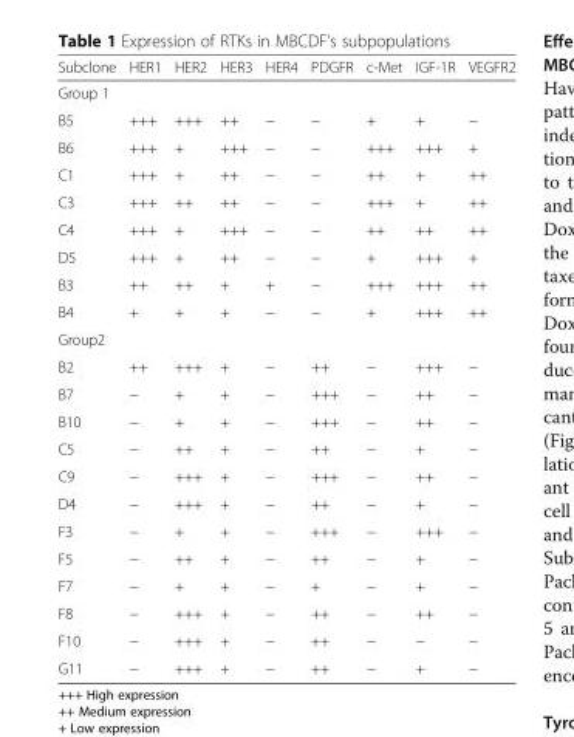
<table><thead><tr><td>Subclone</td><td>HER1</td><td>HER2</td><td>HER3</td><td>HER4</td><td>PDGFR</td><td>c-Met</td><td>IGF-1R</td><td>VEGFR2</td></tr></thead><tbody><tr><td colspan="9">Group 1</td></tr><tr><td>B5</td><td>+++</td><td>+++</td><td>++</td><td>−</td><td>−</td><td>+</td><td>+</td><td>−</td></tr><tr><td>B6</td><td>+++</td><td>+</td><td>+++</td><td>−</td><td>−</td><td>+++</td><td>+++</td><td>+</td></tr><tr><td>C1</td><td>+++</td><td>+</td><td>++</td><td>−</td><td>−</td><td>++</td><td>+</td><td>++</td></tr><tr><td>C3</td><td>+++</td><td>++</td><td>++</td><td>−</td><td>−</td><td>+++</td><td>+</td><td>++</td></tr><tr><td>C4</td><td>+++</td><td>+</td><td>+++</td><td>−</td><td>−</td><td>++</td><td>++</td><td>++</td></tr><tr><td>D5</td><td>+++</td><td>+</td><td>++</td><td>−</td><td>−</td><td>+</td><td>+++</td><td>+</td></tr><tr><td>B3</td><td>++</td><td>++</td><td>+</td><td>+</td><td>−</td><td>+++</td><td>+++</td><td>++</td></tr><tr><td>B4</td><td>+</td><td>+</td><td>+</td><td>−</td><td>−</td><td>+</td><td>+++</td><td>++</td></tr><tr><td colspan="9">Group2</td></tr><tr><td>B2</td><td>++</td><td>+++</td><td>+</td><td>−</td><td>++</td><td>−</td><td>+++</td><td>−</td></tr><tr><td>B7</td><td>−</td><td>+</td><td>+</td><td>−</td><td>+++</td><td>−</td><td>++</td><td>−</td></tr><tr><td>B10</td><td>−</td><td>+</td><td>+</td><td>−</td><td>+++</td><td>−</td><td>++</td><td>−</td></tr><tr><td>C5</td><td>−</td><td>++</td><td>+</td><td>−</td><td>++</td><td>−</td><td>+</td><td>−</td></tr><tr><td>C9</td><td>−</td><td>+++</td><td>+</td><td>−</td><td>+++</td><td>−</td><td>++</td><td>−</td></tr><tr><td>D4</td><td>−</td><td>+++</td><td>+</td><td>−</td><td>++</td><td>−</td><td>+</td><td>−</td></tr><tr><td>F3</td><td>−</td><td>+</td><td>+</td><td>−</td><td>+++</td><td>−</td><td>+++</td><td>−</td></tr><tr><td>F5</td><td>−</td><td>++</td><td>+</td><td>−</td><td>++</td><td>−</td><td>+</td><td>−</td></tr><tr><td>F7</td><td>−</td><td>+</td><td>+</td><td>−</td><td>+</td><td>−</td><td>+</td><td>−</td></tr><tr><td>F8</td><td>−</td><td>+++</td><td>+</td><td>−</td><td>++</td><td>−</td><td>++</td><td>−</td></tr><tr><td>F10</td><td>−</td><td>+++</td><td>+</td><td>−</td><td>++</td><td>−</td><td>−</td><td>−</td></tr><tr><td>G11</td><td>−</td><td>+++</td><td>+</td><td>−</td><td>++</td><td>−</td><td>+</td><td>−</td></tr></tbody></table>